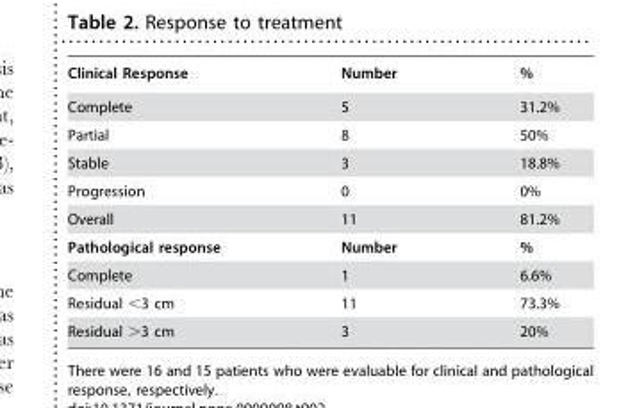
<table><thead><tr><td>Clinical Response</td><td>Number</td><td>%</td></tr></thead><tbody><tr><td>Complete</td><td>5</td><td>31.2%</td></tr><tr><td>Partial</td><td>8</td><td>50%</td></tr><tr><td>Stable</td><td>3</td><td>18.8%</td></tr><tr><td>Progression</td><td>0</td><td>0%</td></tr><tr><td>Overall</td><td>11</td><td>81.2%</td></tr><tr><td>Pathological response</td><td>Number</td><td>%</td></tr><tr><td>Complete</td><td>1</td><td>6.6%</td></tr><tr><td>Residual &lt;3 cm</td><td>11</td><td>73.3%</td></tr><tr><td>Residual &gt;3 cm</td><td>3</td><td>20%</td></tr></tbody></table>